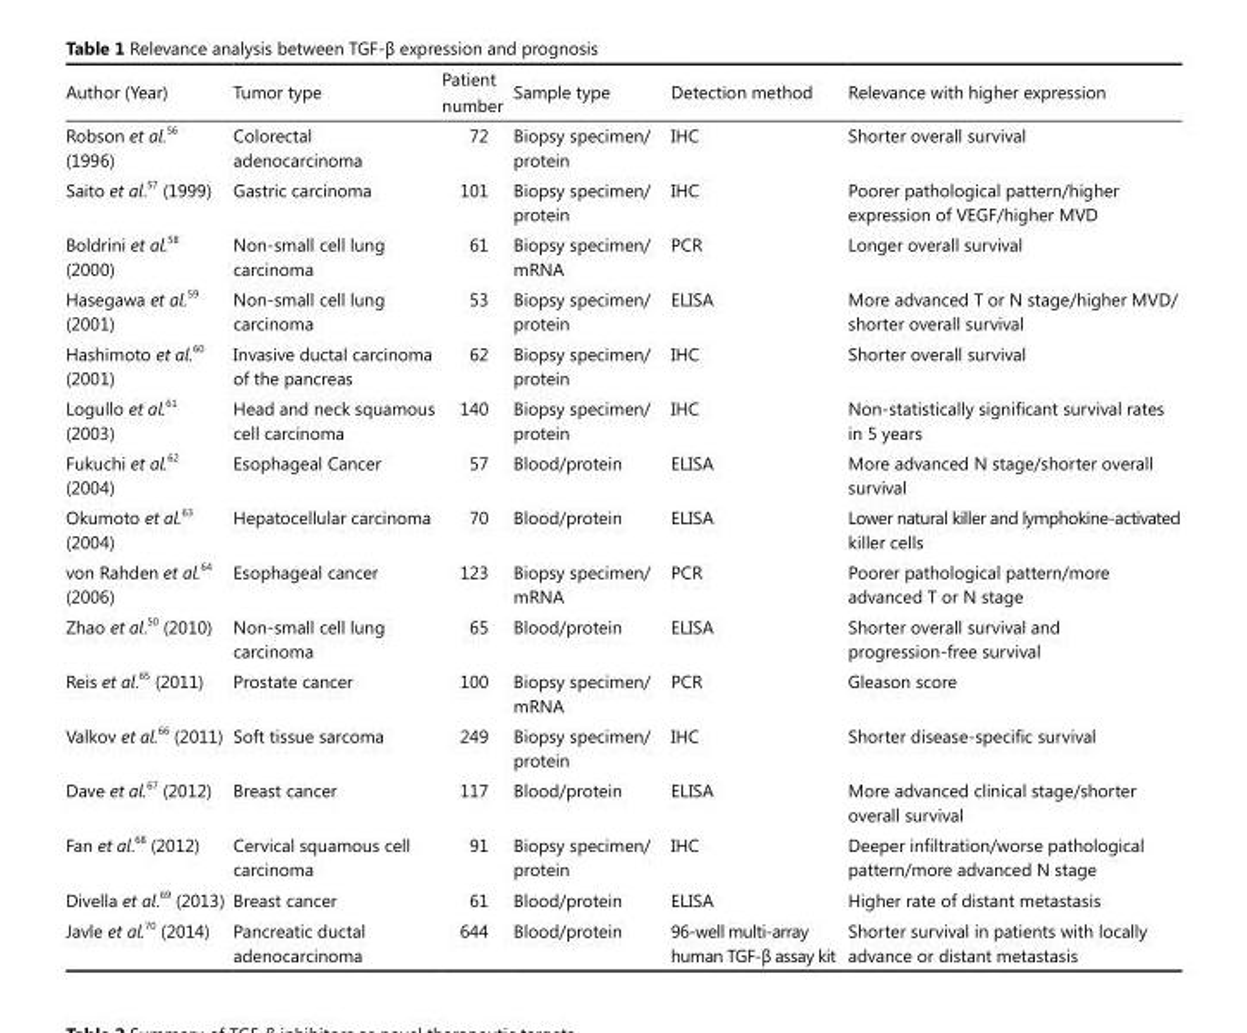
<table><thead><tr><td>Author (Year)</td><td>Tumor type</td><td>Patient number</td><td>Sample type</td><td>Detection method</td><td>Relevance with higher expression</td></tr></thead><tbody><tr><td>Robson et al. <sup>56</sup> (1996)</td><td>Colorectal adenocarcinoma</td><td>72</td><td>Biopsy specimen/ protein</td><td>IHC</td><td>Shorter overall survival</td></tr><tr><td>Saito et al. <sup>57</sup> (1999)</td><td>Gastric carcinoma</td><td>101</td><td>Biopsy specimen/ protein</td><td>IHC</td><td>Poorer pathological pattern/higher expression of VEGF/higher MVD</td></tr><tr><td>Boldrini et al. <sup>58</sup> (2000)</td><td>Non-small cell lung carcinoma</td><td>61</td><td>Biopsy specimen/ mRNA</td><td>PCR</td><td>Longer overall survival</td></tr><tr><td>Hasegawa et al. <sup>59</sup> (2001)</td><td>Non-small cell lung carcinoma</td><td>53</td><td>Biopsy specimen/ protein</td><td>ELISA</td><td>More advanced T or N stage/higher MVD/ shorter overall survival</td></tr><tr><td>Hashimoto et al. <sup>60</sup> (2001)</td><td>Invasive ductal carcinoma of the pancreas</td><td>62</td><td>Biopsy specimen/ protein</td><td>IHC</td><td>Shorter overall survival</td></tr><tr><td>Logullo et al. <sup>61</sup> (2003)</td><td>Head and neck squamous cell carcinoma</td><td>140</td><td>Biopsy specimen/ protein</td><td>IHC</td><td>Non-statistically significant survival rates in 5 years</td></tr><tr><td>Fukuchi et al. <sup>62</sup> (2004)</td><td>Esophageal Cancer</td><td>57</td><td>Blood/protein</td><td>ELISA</td><td>More advanced N stage/shorter overall survival</td></tr><tr><td>Okumoto et al. <sup>63</sup> (2004)</td><td>Hepatocellular carcinoma</td><td>70</td><td>Blood/protein</td><td>ELISA</td><td>Lower natural killer and lymphokine-activated killer cells</td></tr><tr><td>von Rahden et al. <sup>64</sup> (2006)</td><td>Esophageal cancer</td><td>123</td><td>Biopsy specimen/ mRNA</td><td>PCR</td><td>Poorer pathological pattern/more advanced T or N stage</td></tr><tr><td>Zhao et al. <sup>50</sup> (2010)</td><td>Non-small cell lung carcinoma</td><td>65</td><td>Blood/protein</td><td>ELISA</td><td>Shorter overall survival and progression-free survival</td></tr><tr><td>Reis et al. <sup>65</sup> (2011)</td><td>Prostate cancer</td><td>100</td><td>Biopsy specimen/ mRNA</td><td>PCR</td><td>Gleason score</td></tr><tr><td>Valkov et al. <sup>66</sup> (2011)</td><td>Soft tissue sarcoma</td><td>249</td><td>Biopsy specimen/ protein</td><td>IHC</td><td>Shorter disease-specific survival</td></tr><tr><td>Dave et al. <sup>67</sup> (2012)</td><td>Breast cancer</td><td>117</td><td>Blood/protein</td><td>ELISA</td><td>More advanced clinical stage/shorter overall survival</td></tr><tr><td>Fan et al. <sup>68</sup> (2012)</td><td>Cervical squamous cell carcinoma</td><td>91</td><td>Biopsy specimen/ protein</td><td>IHC</td><td>Deeper infiltration/worse pathological pattern/more advanced N stage</td></tr><tr><td>Divella et al. <sup>69</sup> (2013)</td><td>Breast cancer</td><td>61</td><td>Blood/protein</td><td>ELISA</td><td>Higher rate of distant metastasis</td></tr><tr><td>Javle et al. <sup>70</sup> (2014)</td><td>Pancreatic ductal adenocarcinoma</td><td>644</td><td>Blood/protein</td><td>96-well multi-array human TGF-β assay kit</td><td>Shorter survival in patients with locally advance or distant metastasis</td></tr></tbody></table>